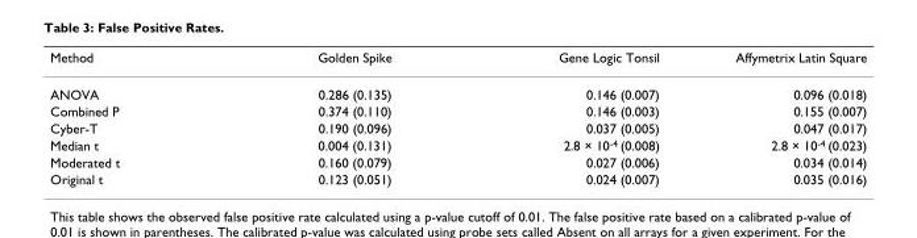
<table><thead><tr><td>Method</td><td>Golden Spike</td><td>Gene Logic Tonsil</td><td>Affymetrix Latin Square</td></tr></thead><tbody><tr><td>ANOVA</td><td>0.286 (0.135)</td><td>0.146 (0.007)</td><td>0.096 (0.018)</td></tr><tr><td>Combined P</td><td>0.374 (0.110)</td><td>0.146 (0.003)</td><td>0.155 (0.007)</td></tr><tr><td>Cyber-T</td><td>0.190 (0.096)</td><td>0.037 (0.005)</td><td>0.047 (0.017)</td></tr><tr><td>Median t</td><td>0.004 (0.131)</td><td>2.8 × 10-4 (0.008)</td><td>2.8 × 10-4 (0.023)</td></tr><tr><td>Moderated t</td><td>0.160 (0.079)</td><td>0.027 (0.006)</td><td>0.034 (0.014)</td></tr><tr><td>Original t</td><td>0.123 (0.051)</td><td>0.024 (0.007)</td><td>0.035 (0.016)</td></tr></tbody></table>